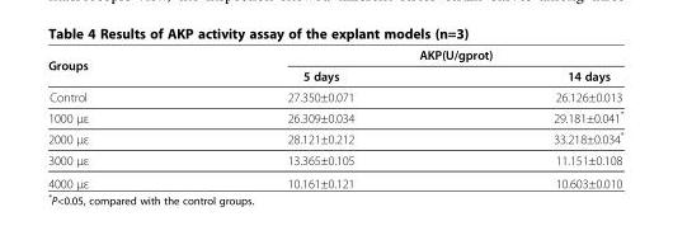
<table><thead><tr><td rowspan="2">Groups</td><td colspan="2">AKP(U/gprot)</td></tr><tr><td>5 days</td><td>14 days</td></tr></thead><tbody><tr><td>Control</td><td>27.350±0.071</td><td>26.126±0.013</td></tr><tr><td>1000 με</td><td>26.309±0.034</td><td>29.181±0.041*</td></tr><tr><td>2000 με</td><td>28.121±0.212</td><td>33.218±0.034*</td></tr><tr><td>3000 με</td><td>13.365±0.105</td><td>11.151±0.108</td></tr><tr><td>4000 με</td><td>10.161±0.121</td><td>10.603±0.010</td></tr></tbody></table>